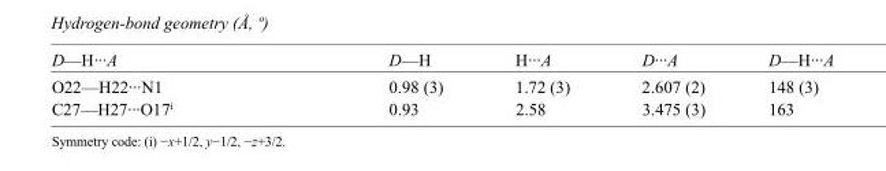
<table><tbody><tr><td>D—H···A</td><td>D—H</td><td>H···A</td><td>D···A</td><td>D—H···A</td></tr><tr><td>O22—H22···N1</td><td>0.98 (3)</td><td>1.72 (3)</td><td>2.607 (2)</td><td>148 (3)</td></tr><tr><td>C27—H27···O17<sup>i</sup></td><td>0.93</td><td>2.58</td><td>3.475 (3)</td><td>163</td></tr></tbody></table>